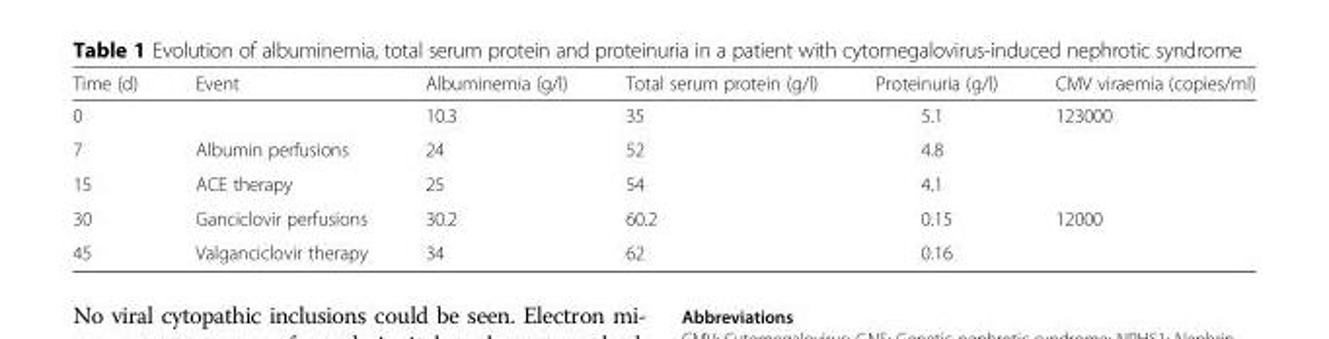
<table><thead><tr><td>Time (d)</td><td>Event</td><td>Albuminemia (g/l)</td><td>Total serum protein (g/l)</td><td>Proteinuria (g/l)</td><td>CMV viraemia (copies/ml)</td></tr></thead><tbody><tr><td>0</td><td></td><td>10.3</td><td>35</td><td>5.1</td><td>123000</td></tr><tr><td>7</td><td>Albumin perfusions</td><td>24</td><td>52</td><td>4.8</td><td></td></tr><tr><td>15</td><td>ACE therapy</td><td>25</td><td>54</td><td>4.1</td><td></td></tr><tr><td>30</td><td>Ganciclovir perfusions</td><td>30.2</td><td>60.2</td><td>0.15</td><td>12000</td></tr><tr><td>45</td><td>Valganciclovir therapy</td><td>34</td><td>62</td><td>0.16</td><td></td></tr></tbody></table>